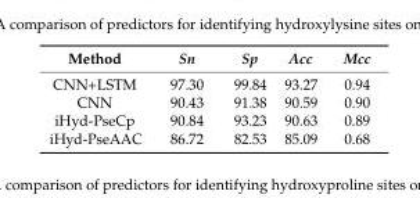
<table><thead><tr><td>Method</td><td>Sn</td><td>Sp</td><td>Acc</td><td>Mcc</td></tr></thead><tbody><tr><td>CNN+LSTM</td><td>97.30</td><td>99.84</td><td>93.27</td><td>0.94</td></tr><tr><td>CNN</td><td>90.43</td><td>91.38</td><td>90.59</td><td>0.90</td></tr><tr><td>iHyd-PseCp</td><td>90.84</td><td>93.23</td><td>90.63</td><td>0.89</td></tr><tr><td>iHyd-PseAAC</td><td>86.72</td><td>82.53</td><td>85.09</td><td>0.68</td></tr></tbody></table>